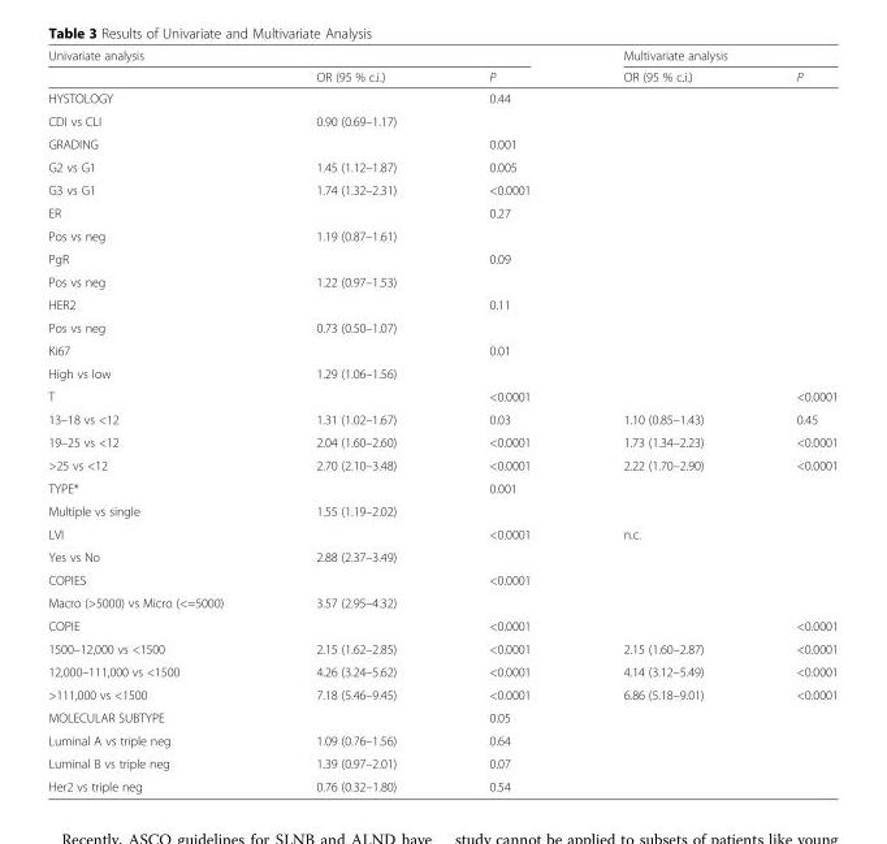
<table><thead><tr><td colspan="3">Univariate analysis</td><td colspan="2">Multivariate analysis</td></tr><tr><td></td><td>OR (95 % c.i.)</td><td>P</td><td>OR (95 % c.i.)</td><td>P</td></tr></thead><tbody><tr><td colspan="2">HYSTOLOGY</td><td rowspan="2">0.44</td><td rowspan="2"></td><td rowspan="2"></td></tr><tr><td>CDI vs CLI</td><td>0.90 (0.69–1.17)</td></tr><tr><td>GRADING</td><td></td><td>0.001</td><td></td><td></td></tr><tr><td>G2 vs G1</td><td>1.45 (1.12–1.87)</td><td>0.005</td><td></td><td></td></tr><tr><td>G3 vs G1</td><td>1.74 (1.32–2.31)</td><td>&lt;0.0001</td><td></td><td></td></tr><tr><td colspan="2">ER</td><td rowspan="2">0.27</td><td rowspan="2"></td><td rowspan="2"></td></tr><tr><td>Pos vs neg</td><td>1.19 (0.87–1.61)</td></tr><tr><td>PgR</td><td></td><td>0.09</td><td rowspan="2"></td><td rowspan="2"></td></tr><tr><td>Pos vs neg</td><td>1.22 (0.97–1.53)</td><td></td></tr><tr><td>HER2</td><td></td><td>0.11</td><td></td><td></td></tr><tr><td>Pos vs neg</td><td>0.73 (0.50–1.07)</td><td></td><td></td><td></td></tr><tr><td>Ki67</td><td></td><td>0.01</td><td></td><td></td></tr><tr><td>High vs low</td><td>1.29 (1.06–1.56)</td><td></td><td></td><td></td></tr><tr><td>T</td><td></td><td>&lt;0.0001</td><td></td><td>&lt;0.0001</td></tr><tr><td>13–18 vs &lt;12</td><td>1.31 (1.02–1.67)</td><td>0.03</td><td>1.10 (0.85–1.43)</td><td>0.45</td></tr><tr><td>19–25 vs &lt;12</td><td>2.04 (1.60–2.60)</td><td>&lt;0.0001</td><td>1.73 (1.34–2.23)</td><td>&lt;0.0001</td></tr><tr><td>&gt;25 vs &lt;12</td><td>2.70 (2.10–3.48)</td><td>&lt;0.0001</td><td>2.22 (1.70–2.90)</td><td>&lt;0.0001</td></tr><tr><td>TYPE*</td><td></td><td>0.001</td><td></td><td></td></tr><tr><td>Multiple vs single</td><td>1.55 (1.19–2.02)</td><td></td><td></td><td></td></tr><tr><td>LVI</td><td></td><td>&lt;0.0001</td><td>n.c.</td><td></td></tr><tr><td>Yes vs No</td><td>2.88 (2.37–3.49)</td><td></td><td></td><td></td></tr><tr><td>COPIES</td><td></td><td>&lt;0.0001</td><td></td><td></td></tr><tr><td>Macro (&gt;5000) vs Micro (&lt;=5000)</td><td>3.57 (2.95–4.32)</td><td></td><td></td><td></td></tr><tr><td>COPIE</td><td></td><td>&lt;0.0001</td><td></td><td>&lt;0.0001</td></tr><tr><td>1500–12,000 vs &lt;1500</td><td>2.15 (1.62–2.85)</td><td>&lt;0.0001</td><td>2.15 (1.60–2.87)</td><td>&lt;0.0001</td></tr><tr><td>12,000–111,000 vs &lt;1500</td><td>4.26 (3.24–5.62)</td><td>&lt;0.0001</td><td>4.14 (3.12–5.49)</td><td>&lt;0.0001</td></tr><tr><td>&gt;111,000 vs &lt;1500</td><td>7.18 (5.46–9.45)</td><td>&lt;0.0001</td><td>6.86 (5.18–9.01)</td><td>&lt;0.0001</td></tr><tr><td>MOLECULAR SUBTYPE</td><td></td><td>0.05</td><td></td><td></td></tr><tr><td>Luminal A vs triple neg</td><td>1.09 (0.76–1.56)</td><td>0.64</td><td></td><td></td></tr><tr><td>Luminal B vs triple neg</td><td>1.39 (0.97–2.01)</td><td>0.07</td><td></td><td></td></tr><tr><td>Her2 vs triple neg</td><td>0.76 (0.32–1.80)</td><td>0.54</td><td></td><td></td></tr></tbody></table>